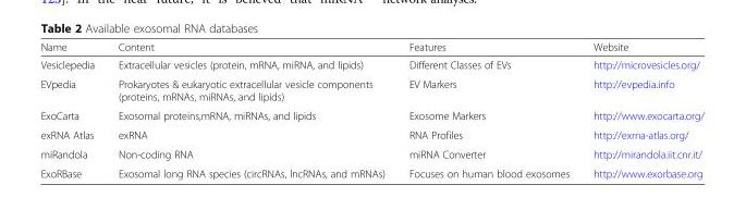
<table><thead><tr><td>Name</td><td>Content</td><td>Features</td><td>Website</td></tr></thead><tbody><tr><td>Vesiclepedia</td><td>Extracellular vesicles (protein, mRNA, miRNA, and lipids)</td><td>Different Classes of EVs</td><td>http://microvesicles.org/</td></tr><tr><td>EVpedia</td><td>Prokaryotes &amp; eukaryotic extracellular vesicle components (proteins, mRNAs, miRNAs, and lipids)</td><td>EV Markers</td><td>http://evpedia.info</td></tr><tr><td>ExoCarta</td><td>Exosomal proteins,mRNA, miRNAs, and lipids</td><td>Exosome Markers</td><td>http://www.exocarta.org/</td></tr><tr><td>exRNA Atlas</td><td>exRNA</td><td>RNA Profiles</td><td>http://exrna-atlas.org/</td></tr><tr><td>miRandola</td><td>Non-coding RNA</td><td>miRNA Converter</td><td>http://mirandola.iit.cnr.it/</td></tr><tr><td>ExoRBase</td><td>Exosomal long RNA species (circRNAs, lncRNAs, and mRNAs)</td><td>Focuses on human blood exosomes</td><td>http://www.exorbase.org</td></tr></tbody></table>